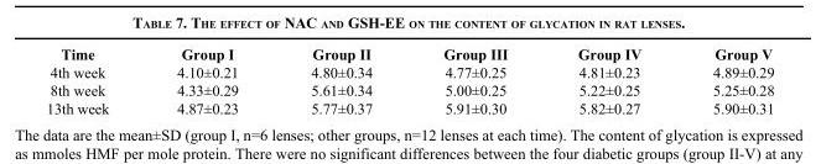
<table><tbody><tr><td>Time</td><td>Group I</td><td>Group II</td><td>Group III</td><td>Group IV</td><td>Group V</td></tr><tr><td>4th week</td><td>4.10±0.21</td><td>4.80±0.34</td><td>4.77±0.25</td><td>4.81±0.23</td><td>4.89±0.29</td></tr><tr><td>8th week</td><td>4.33±0.29</td><td>5.61±0.34</td><td>5.00±0.25</td><td>5.22±0.25</td><td>5.25±0.28</td></tr><tr><td>13th week</td><td>4.87±0.23</td><td>5.77±0.37</td><td>5.91±0.30</td><td>5.82±0.27</td><td>5.90±0.31</td></tr></tbody></table>